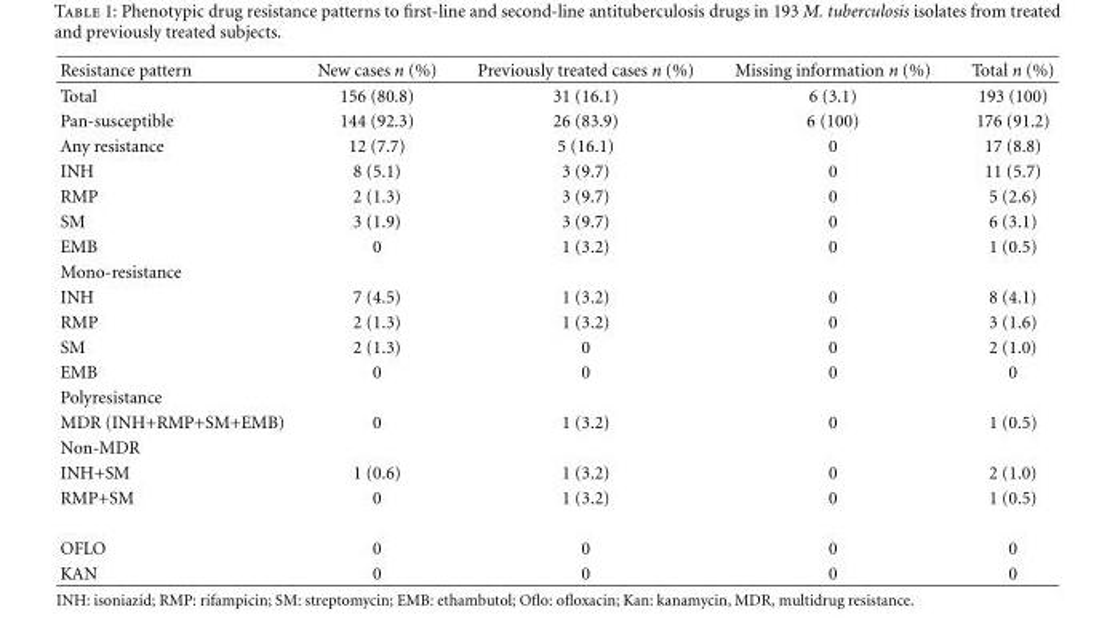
<table><thead><tr><td>Resistance pattern</td><td>New cases n (%)</td><td>Previously treated cases n (%)</td><td>Missing information n (%)</td><td>Total n (%)</td></tr></thead><tbody><tr><td>Total</td><td>156 (80.8)</td><td>31 (16.1)</td><td>6 (3.1)</td><td>193 (100)</td></tr><tr><td>Pan-susceptible</td><td>144 (92.3)</td><td>26 (83.9)</td><td>6 (100)</td><td>176 (91.2)</td></tr><tr><td>Any resistance</td><td>12 (7.7)</td><td>5 (16.1)</td><td>0</td><td>17 (8.8)</td></tr><tr><td>INH</td><td>8 (5.1)</td><td>3 (9.7)</td><td>0</td><td>11 (5.7)</td></tr><tr><td>RMP</td><td>2 (1.3)</td><td>3 (9.7)</td><td>0</td><td>5 (2.6)</td></tr><tr><td>SM</td><td>3 (1.9)</td><td>3 (9.7)</td><td>0</td><td>6 (3.1)</td></tr><tr><td>EMB</td><td>0</td><td>1 (3.2)</td><td>0</td><td>1 (0.5)</td></tr><tr><td colspan="5">Mono-resistance</td></tr><tr><td>INH</td><td>7 (4.5)</td><td>1 (3.2)</td><td>0</td><td>8 (4.1)</td></tr><tr><td>RMP</td><td>2 (1.3)</td><td>1 (3.2)</td><td>0</td><td>3 (1.6)</td></tr><tr><td>SM</td><td>2 (1.3)</td><td>0</td><td>0</td><td>2 (1.0)</td></tr><tr><td>EMB</td><td>0</td><td>0</td><td>0</td><td>0</td></tr><tr><td colspan="5">Polyresistance</td></tr><tr><td>MDR (INH+RMP+SM+EMB)</td><td>0</td><td>1 (3.2)</td><td>0</td><td>1 (0.5)</td></tr><tr><td colspan="5">Non-MDR</td></tr><tr><td>INH+SM</td><td>1 (0.6)</td><td>1 (3.2)</td><td>0</td><td>2 (1.0)</td></tr><tr><td>RMP+SM</td><td>0</td><td>1 (3.2)</td><td>0</td><td>1 (0.5)</td></tr><tr><td>OFLO</td><td>0</td><td>0</td><td>0</td><td>0</td></tr><tr><td>KAN</td><td>0</td><td>0</td><td>0</td><td>0</td></tr></tbody></table>